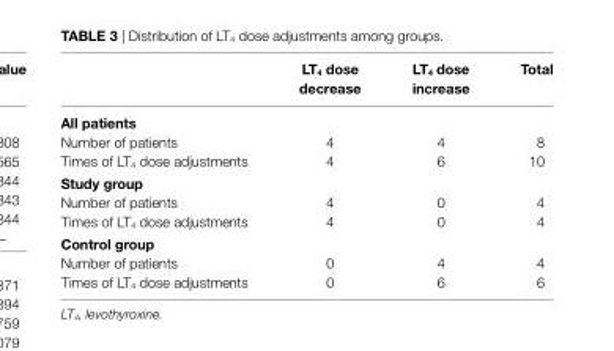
<table><thead><tr><td></td><td>lT<sub>4</sub> dose decrease</td><td>lT<sub>4</sub> dose increase</td><td>Total</td></tr></thead><tbody><tr><td colspan="4">all patients</td></tr><tr><td>Number of patients</td><td>4</td><td>4</td><td>8</td></tr><tr><td>Times of LT<sub>4</sub> dose adjustments</td><td>4</td><td>6</td><td>10</td></tr><tr><td colspan="4">Study group</td></tr><tr><td>Number of patients</td><td>4</td><td>0</td><td>4</td></tr><tr><td>Times of LT<sub>4</sub> dose adjustments</td><td>4</td><td>0</td><td>4</td></tr><tr><td colspan="4">Control group</td></tr><tr><td>Number of patients</td><td>0</td><td>4</td><td>4</td></tr><tr><td>Times of LT<sub>4</sub> dose adjustments</td><td>0</td><td>6</td><td>6</td></tr></tbody></table>